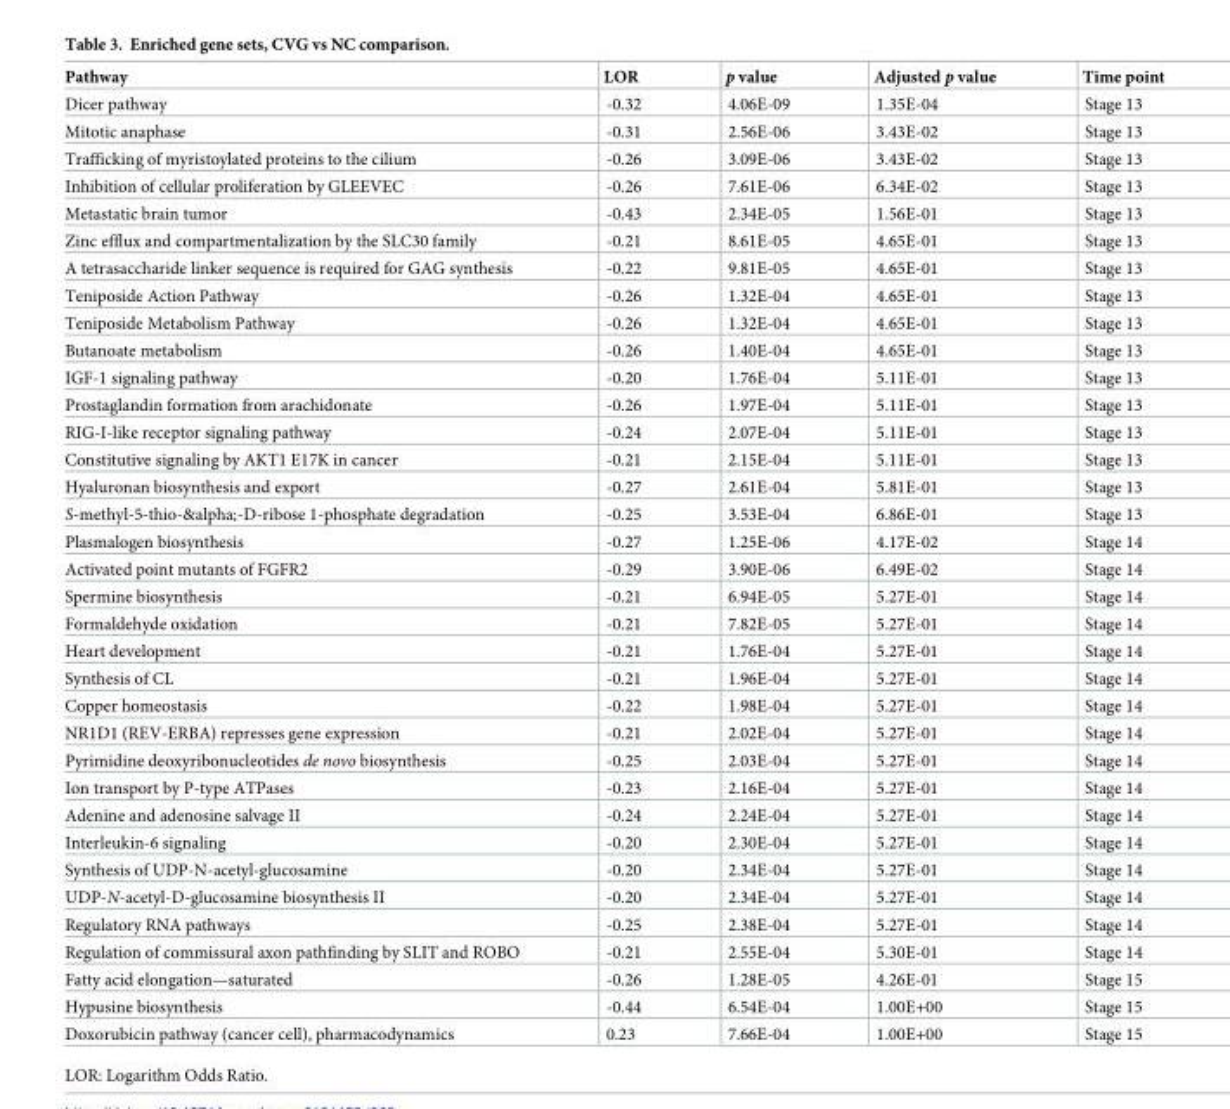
<table><thead><tr><td>Pathway</td><td>LOR</td><td>p value</td><td>Adjusted p value</td><td>Time point</td></tr></thead><tbody><tr><td>Dicer pathway</td><td>-0.32</td><td>4.06E-09</td><td>1.35E-04</td><td>Stage 13</td></tr><tr><td>Mitotic anaphase</td><td>-0.31</td><td>2.56E-06</td><td>3.43E-02</td><td>Stage 13</td></tr><tr><td>Trafficking of myristoylated proteins to the cilium</td><td>-0.26</td><td>3.09E-06</td><td>3.43E-02</td><td>Stage 13</td></tr><tr><td>Inhibition of cellular proliferation by GLEEVEC</td><td>-0.26</td><td>7.61E-06</td><td>6.34E-02</td><td>Stage 13</td></tr><tr><td>Metastatic brain tumor</td><td>-0.43</td><td>2.34E-05</td><td>1.56E-01</td><td>Stage 13</td></tr><tr><td>Zinc efflux and compartmentalization by the SLC30 family</td><td>-0.21</td><td>8.61E-05</td><td>4.65E-01</td><td>Stage 13</td></tr><tr><td>A tetrasaccharide linker sequence is required for GAG synthesis</td><td>-0.22</td><td>9.81E-05</td><td>4.65E-01</td><td>Stage 13</td></tr><tr><td>Teniposide Action Pathway</td><td>-0.26</td><td>1.32E-04</td><td>4.65E-01</td><td>Stage 13</td></tr><tr><td>Teniposide Metabolism Pathway</td><td>-0.26</td><td>1.32E-04</td><td>4.65E-01</td><td>Stage 13</td></tr><tr><td>Butanoate metabolism</td><td>-0.26</td><td>1.40E-04</td><td>4.65E-01</td><td>Stage 13</td></tr><tr><td>IGF-1 signaling pathway</td><td>-0.20</td><td>1.76E-04</td><td>5.11E-01</td><td>Stage 13</td></tr><tr><td>Prostaglandin formation from arachidonate</td><td>-0.26</td><td>1.97E-04</td><td>5.11E-01</td><td>Stage 13</td></tr><tr><td>RIG-I-like receptor signaling pathway</td><td>-0.24</td><td>2.07E-04</td><td>5.11E-01</td><td>Stage 13</td></tr><tr><td>Constitutive signaling by AKT1 E17K in cancer</td><td>-0.21</td><td>2.15E-04</td><td>5.11E-01</td><td>Stage 13</td></tr><tr><td>Hyaluronan biosynthesis and export</td><td>-0.27</td><td>2.61E-04</td><td>5.81E-01</td><td>Stage 13</td></tr><tr><td>S-methyl-5-thio-&amp;alpha;-D-ribose 1-phosphate degradation</td><td>-0.25</td><td>3.53E-04</td><td>6.86E-01</td><td>Stage 13</td></tr><tr><td>Plasmalogen biosynthesis</td><td>-0.27</td><td>1.25E-06</td><td>4.17E-02</td><td>Stage 14</td></tr><tr><td>Activated point mutants of FGFR2</td><td>-0.29</td><td>3.90E-06</td><td>6.49E-02</td><td>Stage 14</td></tr><tr><td>Spermine biosynthesis</td><td>-0.21</td><td>6.94E-05</td><td>5.27E-01</td><td>Stage 14</td></tr><tr><td>Formaldehyde oxidation</td><td>-0.21</td><td>7.82E-05</td><td>5.27E-01</td><td>Stage 14</td></tr><tr><td>Heart development</td><td>-0.21</td><td>1.76E-04</td><td>5.27E-01</td><td>Stage 14</td></tr><tr><td>Synthesis of CL</td><td>-0.21</td><td>1.96E-04</td><td>5.27E-01</td><td>Stage 14</td></tr><tr><td>Copper homeostasis</td><td>-0.22</td><td>1.98E-04</td><td>5.27E-01</td><td>Stage 14</td></tr><tr><td>NR1D1 (REV-ERBA) represses gene expression</td><td>-0.21</td><td>2.02E-04</td><td>5.27E-01</td><td>Stage 14</td></tr><tr><td>Pyrimidine deoxyribonucleotides de novo biosynthesis</td><td>-0.25</td><td>2.03E-04</td><td>5.27E-01</td><td>Stage 14</td></tr><tr><td>Ion transport by P-type ATPases</td><td>-0.23</td><td>2.16E-04</td><td>5.27E-01</td><td>Stage 14</td></tr><tr><td>Adenine and adenosine salvage II</td><td>-0.24</td><td>2.24E-04</td><td>5.27E-01</td><td>Stage 14</td></tr><tr><td>Interleukin-6 signaling</td><td>-0.20</td><td>2.30E-04</td><td>5.27E-01</td><td>Stage 14</td></tr><tr><td>Synthesis of UDP-N-acetyl-glucosamine</td><td>-0.20</td><td>2.34E-04</td><td>5.27E-01</td><td>Stage 14</td></tr><tr><td>UDP-N-acetyl-D-glucosamine biosynthesis II</td><td>-0.20</td><td>2.34E-04</td><td>5.27E-01</td><td>Stage 14</td></tr><tr><td>Regulatory RNA pathways</td><td>-0.25</td><td>2.38E-04</td><td>5.27E-01</td><td>Stage 14</td></tr><tr><td>Regulation of commissural axon pathfinding by SLIT and ROBO</td><td>-0.21</td><td>2.55E-04</td><td>5.30E-01</td><td>Stage 14</td></tr><tr><td>Fatty acid elongation—saturated</td><td>-0.26</td><td>1.28E-05</td><td>4.26E-01</td><td>Stage 15</td></tr><tr><td>Hypusine biosynthesis</td><td>-0.44</td><td>6.54E-04</td><td>1.00E+00</td><td>Stage 15</td></tr><tr><td>Doxorubicin pathway (cancer cell), pharmacodynamics</td><td>0.23</td><td>7.66E-04</td><td>1.00E+00</td><td>Stage 15</td></tr></tbody></table>